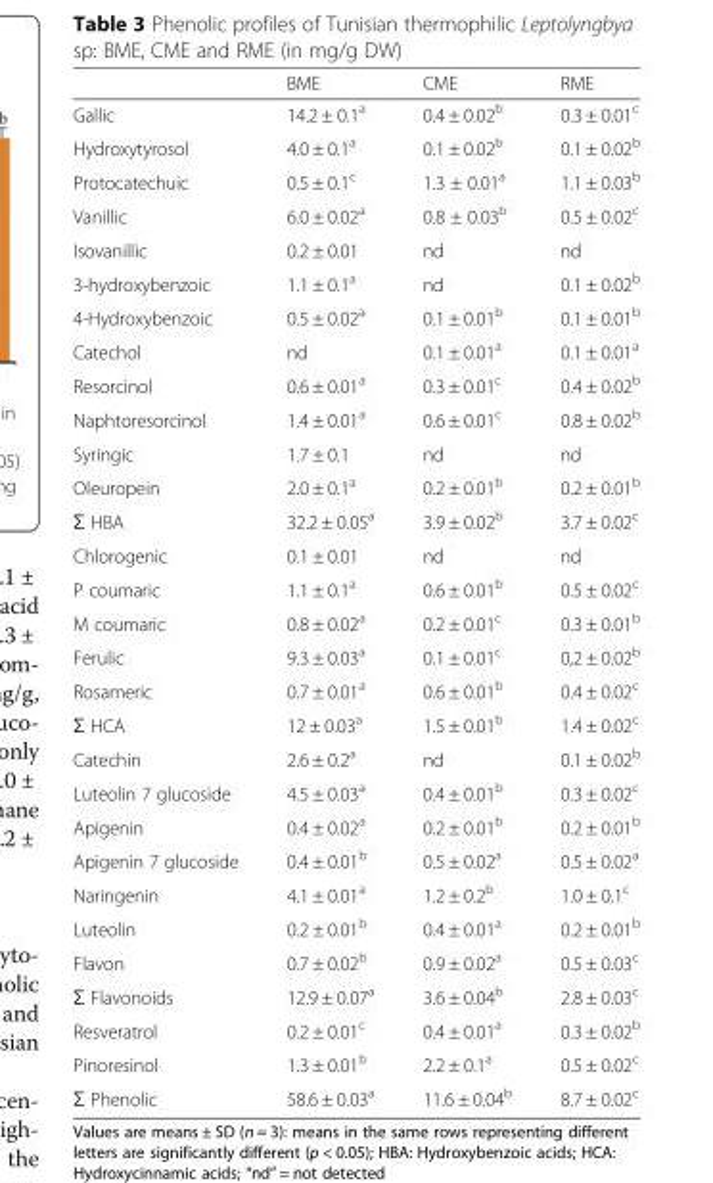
<table><thead><tr><td></td><td>BME</td><td>CME</td><td>RME</td></tr></thead><tbody><tr><td>Gallic</td><td>14.2 ± 0.1<sup>a</sup></td><td>0.4 ± 0.02<sup>b</sup></td><td>0.3 ± 0.01<sup>c</sup></td></tr><tr><td>Hydroxytyrosol</td><td>4.0 ± 0.1<sup>a</sup></td><td>0.1 ± 0.02<sup>b</sup></td><td>0.1 ± 0.02<sup>b</sup></td></tr><tr><td>Protocatechuic</td><td>0.5 ± 0.1<sup>c</sup></td><td>1.3 ± 0.01<sup>a</sup></td><td>1.1 ± 0.03<sup>b</sup></td></tr><tr><td>Vanillic</td><td>6.0 ± 0.02<sup>a</sup></td><td>0.8 ± 0.03<sup>b</sup></td><td>0.5 ± 0.02<sup>c</sup></td></tr><tr><td>Isovanillic</td><td>0.2 ± 0.01</td><td>nd</td><td>nd</td></tr><tr><td>3-hydroxybenzoic</td><td>1.1 ± 0.1<sup>a</sup></td><td>nd</td><td>0.1 ± 0.02<sup>b</sup></td></tr><tr><td>4-Hydroxybenzoic</td><td>0.5 ± 0.02<sup>a</sup></td><td>0.1 ± 0.01<sup>b</sup></td><td>0.1 ± 0.01<sup>b</sup></td></tr><tr><td>Catechol</td><td>nd</td><td>0.1 ± 0.01<sup>a</sup></td><td>0.1 ± 0.01<sup>a</sup></td></tr><tr><td>Resorcinol</td><td>0.6 ± 0.01<sup>a</sup></td><td>0.3 ± 0.01<sup>c</sup></td><td>0.4 ± 0.02<sup>b</sup></td></tr><tr><td>Naphtoresorcinol</td><td>1.4 ± 0.01<sup>a</sup></td><td>0.6 ± 0.01<sup>c</sup></td><td>0.8 ± 0.02<sup>b</sup></td></tr><tr><td>Syringic</td><td>1.7 ± 0.1</td><td>nd</td><td>nd</td></tr><tr><td>Oleuropein</td><td>2.0 ± 0.1<sup>a</sup></td><td>0.2 ± 0.01<sup>b</sup></td><td>0.2 ± 0.01<sup>b</sup></td></tr><tr><td>Ʃ HBA</td><td>32.2 ± 0.05<sup>a</sup></td><td>3.9 ± 0.02<sup>b</sup></td><td>3.7 ± 0.02<sup>c</sup></td></tr><tr><td>Chlorogenic</td><td>0.1 ± 0.01</td><td>nd</td><td>nd</td></tr><tr><td>P coumaric</td><td>1.1 ± 0.1<sup>a</sup></td><td>0.6 ± 0.01<sup>b</sup></td><td>0.5 ± 0.02<sup>c</sup></td></tr><tr><td>M coumaric</td><td>0.8 ± 0.02<sup>a</sup></td><td>0.2 ± 0.01<sup>c</sup></td><td>0.3 ± 0.01<sup>b</sup></td></tr><tr><td>Ferulic</td><td>9.3 ± 0.03<sup>a</sup></td><td>0.1 ± 0.01<sup>c</sup></td><td>0,2 ± 0.02<sup>b</sup></td></tr><tr><td>Rosameric</td><td>0.7 ± 0.01<sup>a</sup></td><td>0.6 ± 0.01<sup>b</sup></td><td>0.4 ± 0.02<sup>c</sup></td></tr><tr><td>Ʃ HCA</td><td>12 ± 0.03<sup>a</sup></td><td>1.5 ± 0.01<sup>b</sup></td><td>1.4 ± 0.02<sup>c</sup></td></tr><tr><td>Catechin</td><td>2.6 ± 0.2<sup>a</sup></td><td>nd</td><td>0.1 ± 0.02<sup>b</sup></td></tr><tr><td>Luteolin 7 glucoside</td><td>4.5 ± 0.03<sup>a</sup></td><td>0.4 ± 0.01<sup>b</sup></td><td>0.3 ± 0.02<sup>c</sup></td></tr><tr><td>Apigenin</td><td>0.4 ± 0.02<sup>a</sup></td><td>0.2 ± 0.01<sup>b</sup></td><td>0.2 ± 0.01<sup>b</sup></td></tr><tr><td>Apigenin 7 glucoside</td><td>0.4 ± 0.01<sup>b</sup></td><td>0.5 ± 0.02<sup>a</sup></td><td>0.5 ± 0.02<sup>a</sup></td></tr><tr><td>Naringenin</td><td>4.1 ± 0.01<sup>a</sup></td><td>1.2 ± 0.2<sup>b</sup></td><td>1.0 ± 0.1<sup>c</sup></td></tr><tr><td>Luteolin</td><td>0.2 ± 0.01<sup>b</sup></td><td>0.4 ± 0.01<sup>a</sup></td><td>0.2 ± 0.01<sup>b</sup></td></tr><tr><td>Flavon</td><td>0.7 ± 0.02<sup>b</sup></td><td>0.9 ± 0.02<sup>a</sup></td><td>0.5 ± 0.03<sup>c</sup></td></tr><tr><td>Ʃ Flavonoids</td><td>12.9 ± 0.07<sup>a</sup></td><td>3.6 ± 0.04<sup>b</sup></td><td>2.8 ± 0.03<sup>c</sup></td></tr><tr><td>Resveratrol</td><td>0.2 ± 0.01<sup>c</sup></td><td>0.4 ± 0.01<sup>a</sup></td><td>0.3 ± 0.02<sup>b</sup></td></tr><tr><td>Pinoresinol</td><td>1.3 ± 0.01<sup>b</sup></td><td>2.2 ± 0.1<sup>a</sup></td><td>0.5 ± 0.02<sup>c</sup></td></tr><tr><td>Ʃ Phenolic</td><td>58.6 ± 0.03<sup>a</sup></td><td>11.6 ± 0.04<sup>b</sup></td><td>8.7 ± 0.02<sup>c</sup></td></tr></tbody></table>